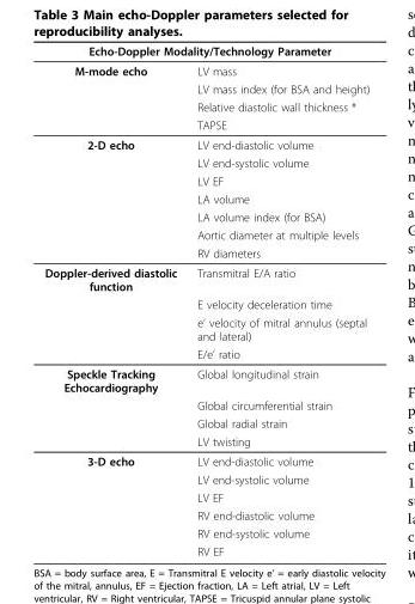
<table><thead><tr><td colspan="2">Echo-Doppler Modality/Technology Parameter</td></tr><tr><td>M-mode echo</td><td>LV mass</td></tr></thead><tbody><tr><td></td><td>LV mass index (for BSA and height)</td></tr><tr><td></td><td>Relative diastolic wall thickness *</td></tr><tr><td></td><td>TAPSE</td></tr><tr><td rowspan="7">2-D echo</td><td>LV end-diastolic volume</td></tr><tr><td>LV end-systolic volume</td></tr><tr><td>LV EF</td></tr><tr><td>LA volume</td></tr><tr><td>LA volume index (for BSA)</td></tr><tr><td>Aortic diameter at multiple levels</td></tr><tr><td>RV diameters</td></tr><tr><td rowspan="4">Doppler-derived diastolic function</td><td>Transmitral E/A ratio</td></tr><tr><td>E velocity deceleration time</td></tr><tr><td>e’ velocity of mitral annulus (septal and lateral)</td></tr><tr><td>E/e’ ratio</td></tr><tr><td rowspan="4">Speckle Tracking Echocardiography</td><td>Global longitudinal strain</td></tr><tr><td>Global circumferential strain</td></tr><tr><td>Global radial strain</td></tr><tr><td>LV twisting</td></tr><tr><td rowspan="6">3-D echo</td><td>LV end-diastolic volume</td></tr><tr><td>LV end-systolic volume</td></tr><tr><td>LV EF</td></tr><tr><td>RV end-diastolic volume</td></tr><tr><td>RV end-systolic volume</td></tr><tr><td>RV EF</td></tr></tbody></table>